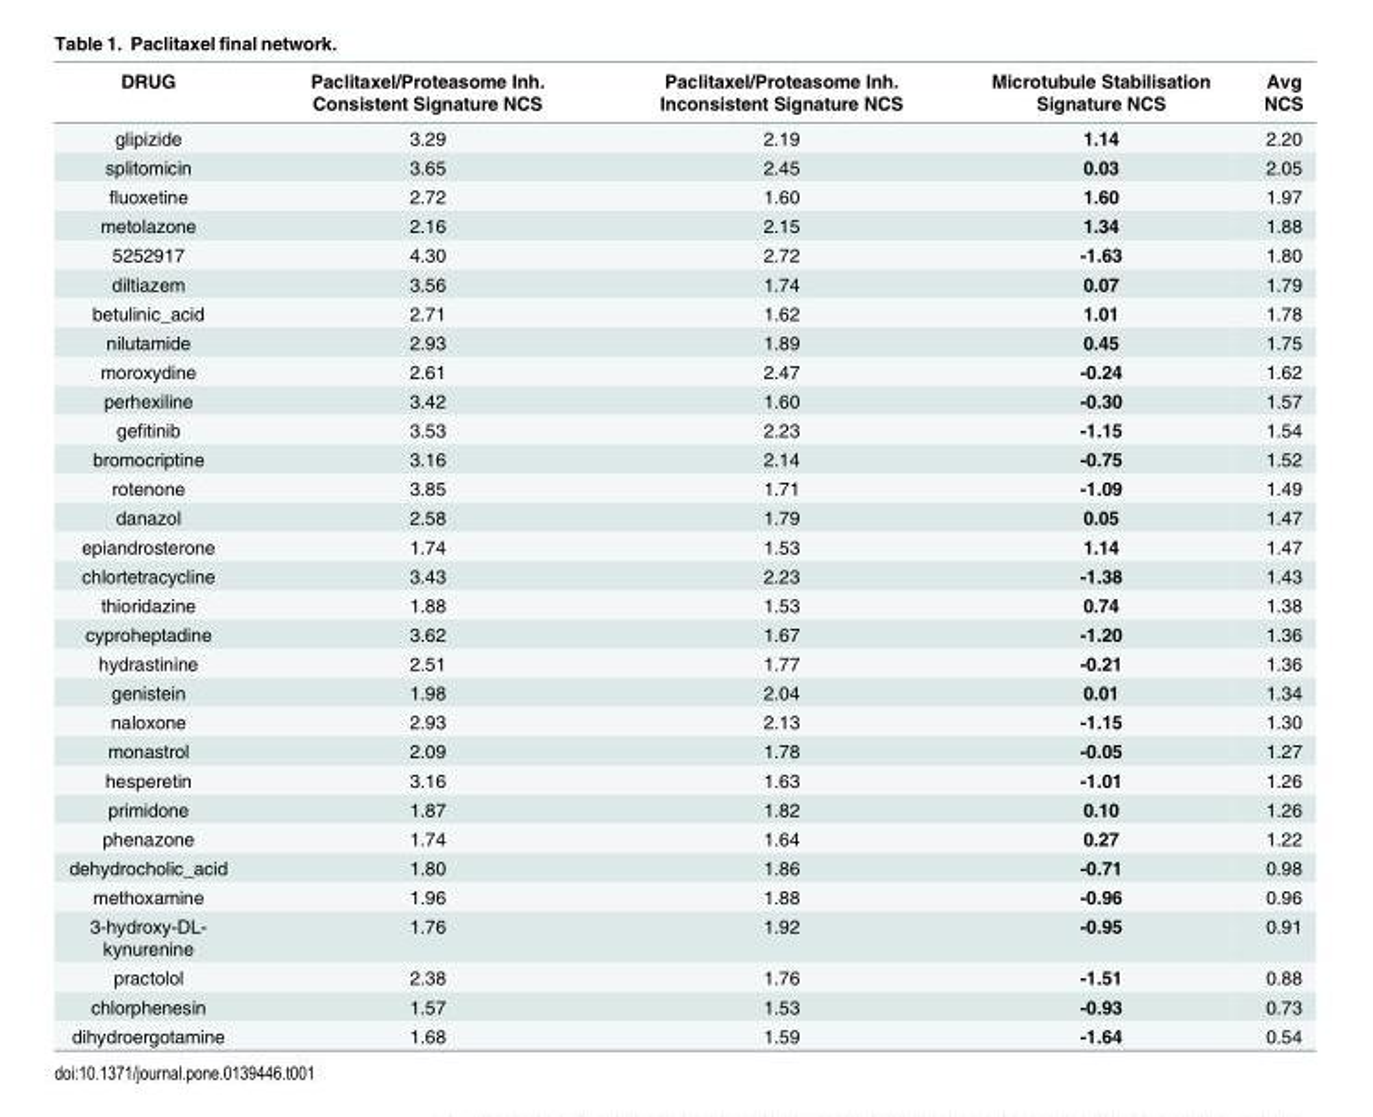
<table><thead><tr><td>DRUG</td><td>Paclitaxel/Proteasome Inh. Consistent Signature NCS</td><td>Paclitaxel/Proteasome Inh. Inconsistent Signature NCS</td><td>Microtubule Stabilisation Signature NCS</td><td>Avg NCS</td></tr></thead><tbody><tr><td>glipizide</td><td>3.29</td><td>2.19</td><td>1.14</td><td>2.20</td></tr><tr><td>splitomicin</td><td>3.65</td><td>2.45</td><td>0.03</td><td>2.05</td></tr><tr><td>fluoxetine</td><td>2.72</td><td>1.60</td><td>1.60</td><td>1.97</td></tr><tr><td>metolazone</td><td>2.16</td><td>2.15</td><td>1.34</td><td>1.88</td></tr><tr><td>5252917</td><td>4.30</td><td>2.72</td><td>-1.63</td><td>1.80</td></tr><tr><td>diltiazem</td><td>3.56</td><td>1.74</td><td>0.07</td><td>1.79</td></tr><tr><td>betulinic_acid</td><td>2.71</td><td>1.62</td><td>1.01</td><td>1.78</td></tr><tr><td>nilutamide</td><td>2.93</td><td>1.89</td><td>0.45</td><td>1.75</td></tr><tr><td>moroxydine</td><td>2.61</td><td>2.47</td><td>-0.24</td><td>1.62</td></tr><tr><td>perhexiline</td><td>3.42</td><td>1.60</td><td>-0.30</td><td>1.57</td></tr><tr><td>gefitinib</td><td>3.53</td><td>2.23</td><td>-1.15</td><td>1.54</td></tr><tr><td>bromocriptine</td><td>3.16</td><td>2.14</td><td>-0.75</td><td>1.52</td></tr><tr><td>rotenone</td><td>3.85</td><td>1.71</td><td>-1.09</td><td>1.49</td></tr><tr><td>danazol</td><td>2.58</td><td>1.79</td><td>0.05</td><td>1.47</td></tr><tr><td>epiandrosterone</td><td>1.74</td><td>1.53</td><td>1.14</td><td>1.47</td></tr><tr><td>chlortetracycline</td><td>3.43</td><td>2.23</td><td>-1.38</td><td>1.43</td></tr><tr><td>thioridazine</td><td>1.88</td><td>1.53</td><td>0.74</td><td>1.38</td></tr><tr><td>cyproheptadine</td><td>3.62</td><td>1.67</td><td>-1.20</td><td>1.36</td></tr><tr><td>hydrastinine</td><td>2.51</td><td>1.77</td><td>-0.21</td><td>1.36</td></tr><tr><td>genistein</td><td>1.98</td><td>2.04</td><td>0.01</td><td>1.34</td></tr><tr><td>naloxone</td><td>2.93</td><td>2.13</td><td>-1.15</td><td>1.30</td></tr><tr><td>monastrol</td><td>2.09</td><td>1.78</td><td>-0.05</td><td>1.27</td></tr><tr><td>hesperetin</td><td>3.16</td><td>1.63</td><td>-1.01</td><td>1.26</td></tr><tr><td>primidone</td><td>1.87</td><td>1.82</td><td>0.10</td><td>1.26</td></tr><tr><td>phenazone</td><td>1.74</td><td>1.64</td><td>0.27</td><td>1.22</td></tr><tr><td>dehydrocholic_acid</td><td>1.80</td><td>1.86</td><td>-0.71</td><td>0.98</td></tr><tr><td>methoxamine</td><td>1.96</td><td>1.88</td><td>-0.96</td><td>0.96</td></tr><tr><td>3-hydroxy-DL- kynurenine</td><td>1.76</td><td>1.92</td><td>-0.95</td><td>0.91</td></tr><tr><td>practolol</td><td>2.38</td><td>1.76</td><td>-1.51</td><td>0.88</td></tr><tr><td>chlorphenesin</td><td>1.57</td><td>1.53</td><td>-0.93</td><td>0.73</td></tr><tr><td>dihydroergotamine</td><td>1.68</td><td>1.59</td><td>-1.64</td><td>0.54</td></tr></tbody></table>